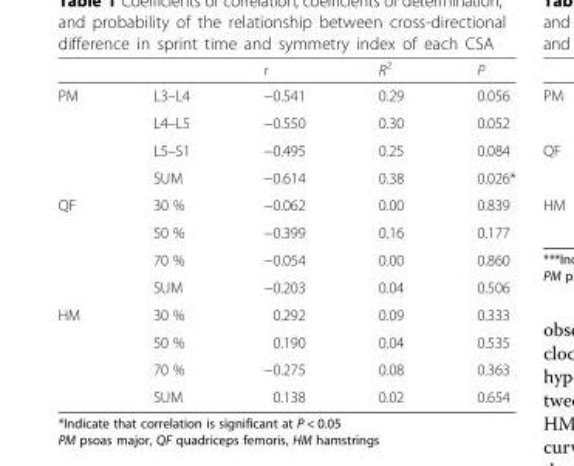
<table><thead><tr><td></td><td></td><td>r</td><td>R<sup>2</sup></td><td>P</td></tr></thead><tbody><tr><td rowspan="4">PM</td><td>L3–L4</td><td>−0.541</td><td>0.29</td><td>0.056</td></tr><tr><td>L4–L5</td><td>−0.550</td><td>0.30</td><td>0.052</td></tr><tr><td>L5–S1</td><td>−0.495</td><td>0.25</td><td>0.084</td></tr><tr><td>SUM</td><td>−0.614</td><td>0.38</td><td>0.026*</td></tr><tr><td rowspan="4">QF</td><td>30 %</td><td>−0.062</td><td>0.00</td><td>0.839</td></tr><tr><td>50 %</td><td>−0.399</td><td>0.16</td><td>0.177</td></tr><tr><td>70 %</td><td>−0.054</td><td>0.00</td><td>0.860</td></tr><tr><td>SUM</td><td>−0.203</td><td>0.04</td><td>0.506</td></tr><tr><td rowspan="4">HM</td><td>30 %</td><td>0.292</td><td>0.09</td><td>0.333</td></tr><tr><td>50 %</td><td>0.190</td><td>0.04</td><td>0.535</td></tr><tr><td>70 %</td><td>−0.275</td><td>0.08</td><td>0.363</td></tr><tr><td>SUM</td><td>0.138</td><td>0.02</td><td>0.654</td></tr></tbody></table>